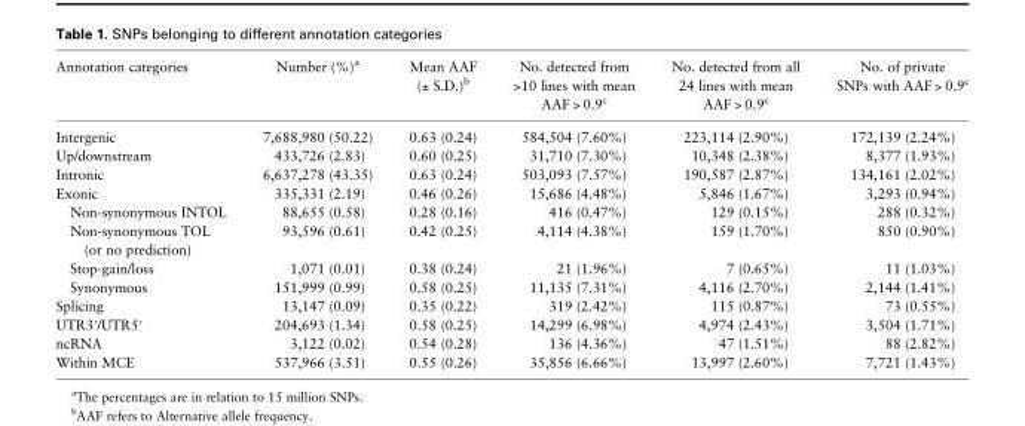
<table><thead><tr><td>Annotation categories</td><td>Number (%)<sup>a</sup></td><td>Mean AAF (± S.D.)<sup>b</sup></td><td>No. detected from &gt;10 lines with mean AAF &gt; 0.9<sup>c</sup></td><td>No. detected from all 24 lines with mean AAF &gt; 0.9<sup>c</sup></td><td>No. of private SNPs with AAF &gt; 0.9<sup>c</sup></td></tr></thead><tbody><tr><td>Intergenic</td><td>7,688,980 (50.22)</td><td>0.63 (0.24)</td><td>584,504 (7.60%)</td><td>223,114 (2.90%)</td><td>172,139 (2.24%)</td></tr><tr><td>Up/downstream</td><td>433,726 (2.83)</td><td>0.60 (0.25)</td><td>31,710 (7.30%)</td><td>10,348 (2.38%)</td><td>8,377 (1.93%)</td></tr><tr><td>Intronic</td><td>6,637,278 (43.35)</td><td>0.63 (0.24)</td><td>503,093 (7.57%)</td><td>190,587 (2.87%)</td><td>134,161 (2.02%)</td></tr><tr><td>Exonic</td><td>335,331 (2.19)</td><td>0.46 (0.26)</td><td>15,686 (4.48%)</td><td>5,846 (1.67%)</td><td>3,293 (0.94%)</td></tr><tr><td>Non-synonymous INTOL</td><td>88,655 (0.58)</td><td>0.28 (0.16)</td><td>416 (0.47%)</td><td>129 (0.15%)</td><td>288 (0.32%)</td></tr><tr><td>Non-synonymous TOL (or no prediction)</td><td>93,596 (0.61)</td><td>0.42 (0.25)</td><td>4,114 (4.38%)</td><td>159 (1.70%)</td><td>850 (0.90%)</td></tr><tr><td>Stop-gain/loss</td><td>1,071 (0.01)</td><td>0.38 (0.24)</td><td>21 (1.96%)</td><td>7 (0.65%)</td><td>11 (1.03%)</td></tr><tr><td>Synonymous</td><td>151,999 (0.99)</td><td>0.58 (0.25)</td><td>11,135 (7.31%)</td><td>4,116 (2.70%)</td><td>2,144 (1.41%)</td></tr><tr><td>Splicing</td><td>13,147 (0.09)</td><td>0.35 (0.22)</td><td>319 (2.42%)</td><td>115 (0.87%)</td><td>73 (0.55%)</td></tr><tr><td>UTR3′/UTR5′</td><td>204,693 (1.34)</td><td>0.58 (0.25)</td><td>14,299 (6.98%)</td><td>4,974 (2.43%)</td><td>3,504 (1.71%)</td></tr><tr><td>ncRNA</td><td>3,122 (0.02)</td><td>0.54 (0.28)</td><td>136 (4.36%)</td><td>47 (1.51%)</td><td>88 (2.82%)</td></tr><tr><td>Within MCE</td><td>537,966 (3.51)</td><td>0.55 (0.26)</td><td>35,856 (6.66%)</td><td>13,997 (2.60%)</td><td>7,721 (1.43%)</td></tr></tbody></table>